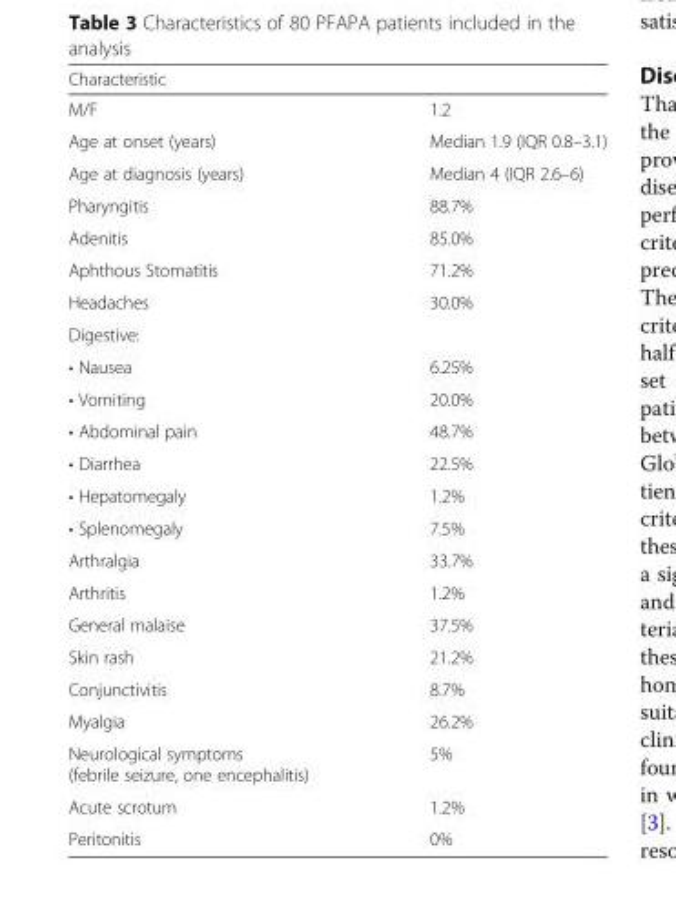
<table><thead><tr><td>Characteristic</td><td></td></tr></thead><tbody><tr><td>M/F</td><td>1.2</td></tr><tr><td>Age at onset (years)</td><td>Median 1.9 (IQR 0.8–3.1)</td></tr><tr><td>Age at diagnosis (years)</td><td>Median 4 (IQR 2.6–6)</td></tr><tr><td>Pharyngitis</td><td>88.7%</td></tr><tr><td>Adenitis</td><td>85.0%</td></tr><tr><td>Aphthous Stomatitis</td><td>71.2%</td></tr><tr><td>Headaches</td><td>30.0%</td></tr><tr><td colspan="2">Digestive:</td></tr><tr><td>• Nausea</td><td>6.25%</td></tr><tr><td>• Vomiting</td><td>20.0%</td></tr><tr><td>• Abdominal pain</td><td>48.7%</td></tr><tr><td>• Diarrhea</td><td>22.5%</td></tr><tr><td>• Hepatomegaly</td><td>1.2%</td></tr><tr><td>• Splenomegaly</td><td>7.5%</td></tr><tr><td>Arthralgia</td><td>33.7%</td></tr><tr><td>Arthritis</td><td>1.2%</td></tr><tr><td>General malaise</td><td>37.5%</td></tr><tr><td>Skin rash</td><td>21.2%</td></tr><tr><td>Conjunctivitis</td><td>8.7%</td></tr><tr><td>Myalgia</td><td>26.2%</td></tr><tr><td>Neurological symptoms (febrile seizure, one encephalitis)</td><td>5%</td></tr><tr><td>Acute scrotum</td><td>1.2%</td></tr><tr><td>Peritonitis</td><td>0%</td></tr></tbody></table>